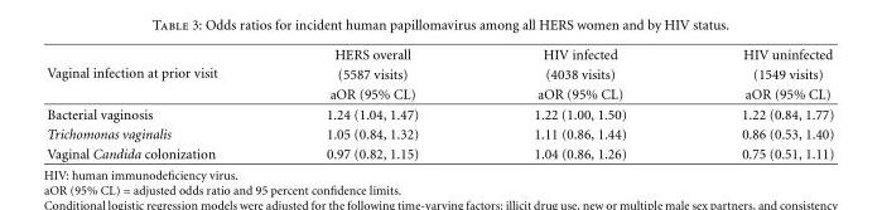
<table><thead><tr><td rowspan="3">Vaginal infection at prior visit</td><td rowspan="3">HERS overall (5587 visits) aOR (95% CL)</td><td rowspan="3">HIV infected (4038 visits) aOR (95% CL)</td><td rowspan="3">HIV uninfected (1549 visits) aOR (95% CL)</td></tr><tr></tr><tr></tr></thead><tbody><tr><td>Bacterial vaginosis</td><td>1.24 (1.04, 1.47)</td><td>1.22 (1.00, 1.50)</td><td>1.22 (0.84, 1.77)</td></tr><tr><td>Trichomonas vaginalis</td><td>1.05 (0.84, 1.32)</td><td>1.11 (0.86, 1.44)</td><td>0.86 (0.53, 1.40)</td></tr><tr><td>Vaginal Candida colonization</td><td>0.97 (0.82, 1.15)</td><td>1.04 (0.86, 1.26)</td><td>0.75 (0.51, 1.11)</td></tr></tbody></table>